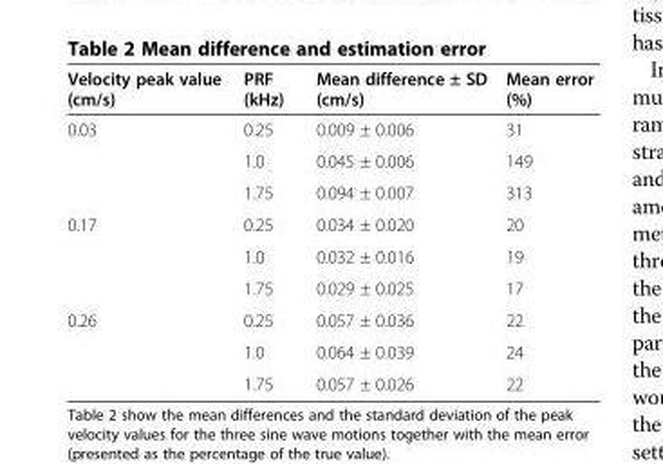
<table><thead><tr><td>Velocity peak value (cm/s)</td><td>PRF (kHz)</td><td>Mean difference ± SD (cm/s)</td><td>Mean error (%)</td></tr></thead><tbody><tr><td rowspan="3">0.03</td><td>0.25</td><td>0.009 ± 0.006</td><td>31</td></tr><tr><td>1.0</td><td>0.045 ± 0.006</td><td>149</td></tr><tr><td>1.75</td><td>0.094 ± 0.007</td><td>313</td></tr><tr><td rowspan="3">0.17</td><td>0.25</td><td>0.034 ± 0.020</td><td>20</td></tr><tr><td>1.0</td><td>0.032 ± 0.016</td><td>19</td></tr><tr><td>1.75</td><td>0.029 ± 0.025</td><td>17</td></tr><tr><td rowspan="3">0.26</td><td>0.25</td><td>0.057 ± 0.036</td><td>22</td></tr><tr><td>1.0</td><td>0.064 ± 0.039</td><td>24</td></tr><tr><td>1.75</td><td>0.057 ± 0.026</td><td>22</td></tr></tbody></table>